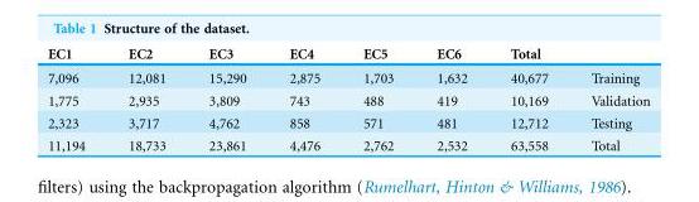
<table><thead><tr><td>EC1</td><td>EC2</td><td>EC3</td><td>EC4</td><td>EC5</td><td>EC6</td><td>Total</td><td></td></tr></thead><tbody><tr><td>7,096</td><td>12,081</td><td>15,290</td><td>2,875</td><td>1,703</td><td>1,632</td><td>40,677</td><td>Training</td></tr><tr><td>1,775</td><td>2,935</td><td>3,809</td><td>743</td><td>488</td><td>419</td><td>10,169</td><td>Validation</td></tr><tr><td>2,323</td><td>3,717</td><td>4,762</td><td>858</td><td>571</td><td>481</td><td>12,712</td><td>Testing</td></tr><tr><td>11,194</td><td>18,733</td><td>23,861</td><td>4,476</td><td>2,762</td><td>2,532</td><td>63,558</td><td>Total</td></tr></tbody></table>